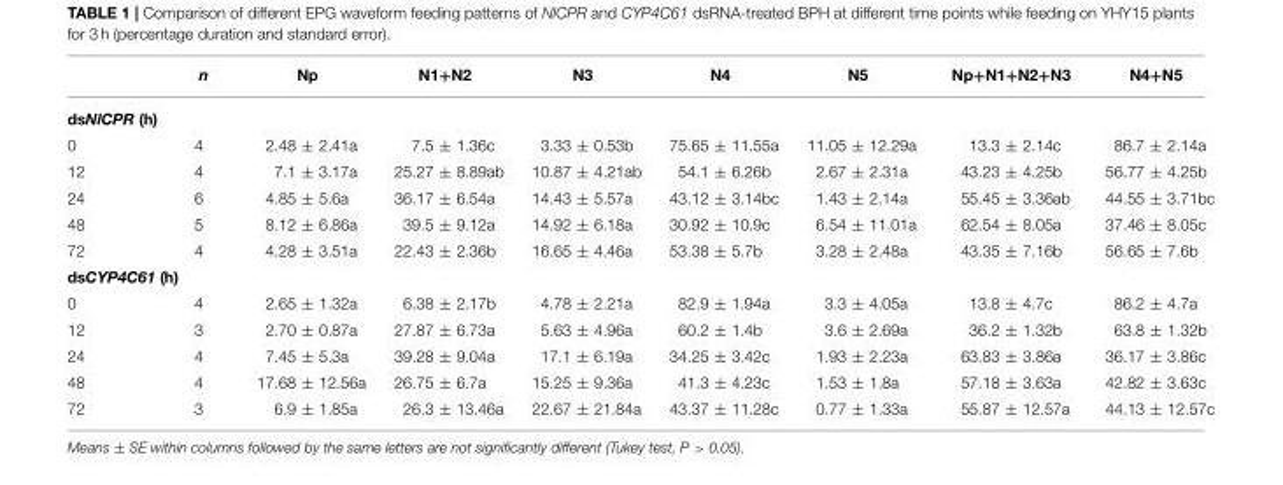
<table><thead><tr><td></td><td>n</td><td>Np</td><td>N1+N2</td><td>N3</td><td>N4</td><td>N5</td><td>Np+N1+N2+N3</td><td>N4+N5</td></tr></thead><tbody><tr><td colspan="9">dsNlCPR (h)</td></tr><tr><td>0</td><td>4</td><td>2.48 ± 2.41a</td><td>7.5 ± 1.36c</td><td>3.33 ± 0.53b</td><td>75.65 ± 11.55a</td><td>11.05 ± 12.29a</td><td>13.3 ± 2.14c</td><td>86.7 ± 2.14a</td></tr><tr><td>12</td><td>4</td><td>7.1 ± 3.17a</td><td>25.27 ± 8.89ab</td><td>10.87 ± 4.21ab</td><td>54.1 ± 6.26b</td><td>2.67 ± 2.31a</td><td>43.23 ± 4.25b</td><td>56.77 ± 4.25b</td></tr><tr><td>24</td><td>6</td><td>4.85 ± 5.6a</td><td>36.17 ± 6.54a</td><td>14.43 ± 5.57a</td><td>43.12 ± 3.14bc</td><td>1.43 ± 2.14a</td><td>55.45 ± 3.36ab</td><td>44.55 ± 3.71bc</td></tr><tr><td>48</td><td>5</td><td>8.12 ± 6.86a</td><td>39.5 ± 9.12a</td><td>14.92 ± 6.18a</td><td>30.92 ± 10.9c</td><td>6.54 ± 11.01a</td><td>62.54 ± 8.05a</td><td>37.46 ± 8.05c</td></tr><tr><td>72</td><td>4</td><td>4.28 ± 3.51a</td><td>22.43 ± 2.36b</td><td>16.65 ± 4.46a</td><td>53.38 ± 5.7b</td><td>3.28 ± 2.48a</td><td>43.35 ± 7.16b</td><td>56.65 ± 7.6b</td></tr><tr><td colspan="9">dsCYP4C61 (h)</td></tr><tr><td>0</td><td>4</td><td>2.65 ± 1.32a</td><td>6.38 ± 2.17b</td><td>4.78 ± 2.21a</td><td>82.9 ± 1.94a</td><td>3.3 ± 4.05a</td><td>13.8 ± 4.7c</td><td>86.2 ± 4.7a</td></tr><tr><td>12</td><td>3</td><td>2.70 ± 0.87a</td><td>27.87 ± 6.73a</td><td>5.63 ± 4.96a</td><td>60.2 ± 1.4b</td><td>3.6 ± 2.69a</td><td>36.2 ± 1.32b</td><td>63.8 ± 1.32b</td></tr><tr><td>24</td><td>4</td><td>7.45 ± 5.3a</td><td>39.28 ± 9.04a</td><td>17.1 ± 6.19a</td><td>34.25 ± 3.42c</td><td>1.93 ± 2.23a</td><td>63.83 ± 3.86a</td><td>36.17 ± 3.86c</td></tr><tr><td>48</td><td>4</td><td>17.68 ± 12.56a</td><td>26.75 ± 6.7a</td><td>15.25 ± 9.36a</td><td>41.3 ± 4.23c</td><td>1.53 ± 1.8a</td><td>57.18 ± 3.63a</td><td>42.82 ± 3.63c</td></tr><tr><td>72</td><td>3</td><td>6.9 ± 1.85a</td><td>26.3 ± 13.46a</td><td>22.67 ± 21.84a</td><td>43.37 ± 11.28c</td><td>0.77 ± 1.33a</td><td>55.87 ± 12.57a</td><td>44.13 ± 12.57c</td></tr></tbody></table>